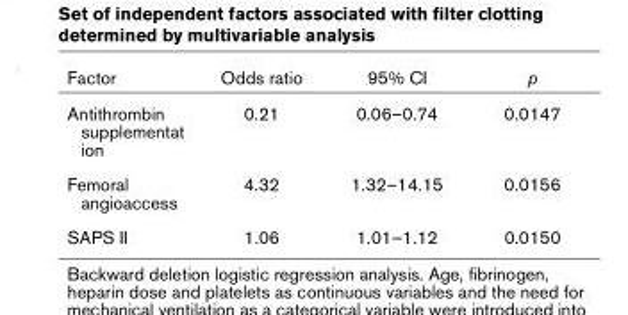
<table><thead><tr><td>Factor</td><td>Odds ratio</td><td>95% CI</td><td>p</td></tr></thead><tbody><tr><td>Antithrombin supplementat ion</td><td>0.21</td><td>0.06–0.74</td><td>0.0147</td></tr><tr><td>Femoral angioaccess</td><td>4.32</td><td>1.32–14.15</td><td>0.0156</td></tr><tr><td>SAPS II</td><td>1.06</td><td>1.01–1.12</td><td>0.0150</td></tr></tbody></table>